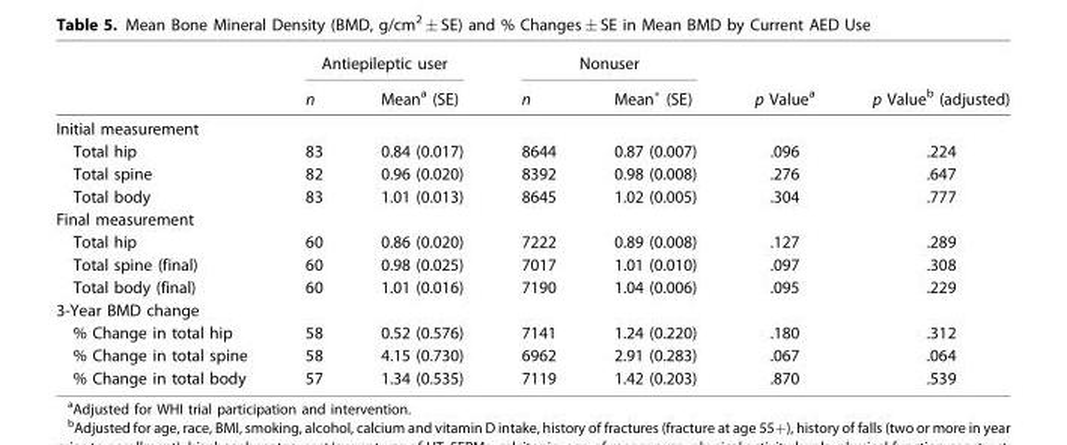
<table><thead><tr><td rowspan="2"></td><td colspan="2">Antiepileptic user</td><td colspan="2">Nonuser</td><td rowspan="2">p Value<sup>a</sup></td><td rowspan="2">p Value<sup>b</sup> (adjusted)</td></tr><tr><td>n</td><td>Mean<sup>a</sup> (SE)</td><td>n</td><td>Mean* (SE)</td></tr></thead><tbody><tr><td colspan="7">Initial measurement</td></tr><tr><td>Total hip</td><td>83</td><td>0.84 (0.017)</td><td>8644</td><td>0.87 (0.007)</td><td>.096</td><td>.224</td></tr><tr><td>Total spine</td><td>82</td><td>0.96 (0.020)</td><td>8392</td><td>0.98 (0.008)</td><td>.276</td><td>.647</td></tr><tr><td>Total body</td><td>83</td><td>1.01 (0.013)</td><td>8645</td><td>1.02 (0.005)</td><td>.304</td><td>.777</td></tr><tr><td colspan="7">Final measurement</td></tr><tr><td>Total hip</td><td>60</td><td>0.86 (0.020)</td><td>7222</td><td>0.89 (0.008)</td><td>.127</td><td>.289</td></tr><tr><td>Total spine (final)</td><td>60</td><td>0.98 (0.025)</td><td>7017</td><td>1.01 (0.010)</td><td>.097</td><td>.308</td></tr><tr><td>Total body (final)</td><td>60</td><td>1.01 (0.016)</td><td>7190</td><td>1.04 (0.006)</td><td>.095</td><td>.229</td></tr><tr><td colspan="7">3-Year BMD change</td></tr><tr><td>% Change in total hip</td><td>58</td><td>0.52 (0.576)</td><td>7141</td><td>1.24 (0.220)</td><td>.180</td><td>.312</td></tr><tr><td>% Change in total spine</td><td>58</td><td>4.15 (0.730)</td><td>6962</td><td>2.91 (0.283)</td><td>.067</td><td>.064</td></tr><tr><td>% Change in total body</td><td>57</td><td>1.34 (0.535)</td><td>7119</td><td>1.42 (0.203)</td><td>.870</td><td>.539</td></tr></tbody></table>